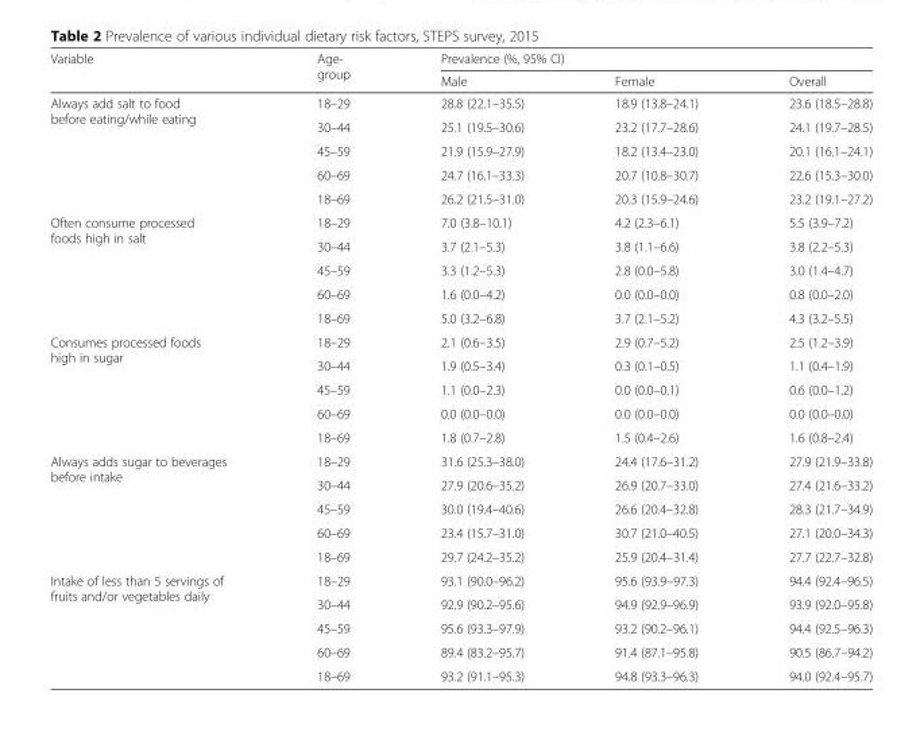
<table><thead><tr><td rowspan="2">Variable</td><td rowspan="2">Age- group</td><td colspan="3">Prevalence (%, 95% CI)</td></tr><tr><td>Male</td><td>Female</td><td>Overall</td></tr></thead><tbody><tr><td rowspan="5">Always add salt to food before eating/while eating</td><td>18–29</td><td>28.8 (22.1–35.5)</td><td>18.9 (13.8–24.1)</td><td>23.6 (18.5–28.8)</td></tr><tr><td>30–44</td><td>25.1 (19.5–30.6)</td><td>23.2 (17.7–28.6)</td><td>24.1 (19.7–28.5)</td></tr><tr><td>45–59</td><td>21.9 (15.9–27.9)</td><td>18.2 (13.4–23.0)</td><td>20.1 (16.1–24.1)</td></tr><tr><td>60–69</td><td>24.7 (16.1–33.3)</td><td>20.7 (10.8–30.7)</td><td>22.6 (15.3–30.0)</td></tr><tr><td>18–69</td><td>26.2 (21.5–31.0)</td><td>20.3 (15.9–24.6)</td><td>23.2 (19.1–27.2)</td></tr><tr><td rowspan="5">Often consume processed foods high in salt</td><td>18–29</td><td>7.0 (3.8–10.1)</td><td>4.2 (2.3–6.1)</td><td>5.5 (3.9–7.2)</td></tr><tr><td>30–44</td><td>3.7 (2.1–5.3)</td><td>3.8 (1.1–6.6)</td><td>3.8 (2.2–5.3)</td></tr><tr><td>45–59</td><td>3.3 (1.2–5.3)</td><td>2.8 (0.0–5.8)</td><td>3.0 (1.4–4.7)</td></tr><tr><td>60–69</td><td>1.6 (0.0–4.2)</td><td>0.0 (0.0–0.0)</td><td>0.8 (0.0–2.0)</td></tr><tr><td>18–69</td><td>5.0 (3.2–6.8)</td><td>3.7 (2.1–5.2)</td><td>4.3 (3.2–5.5)</td></tr><tr><td rowspan="5">Consumes processed foods high in sugar</td><td>18–29</td><td>2.1 (0.6–3.5)</td><td>2.9 (0.7–5.2)</td><td>2.5 (1.2–3.9)</td></tr><tr><td>30–44</td><td>1.9 (0.5–3.4)</td><td>0.3 (0.1–0.5)</td><td>1.1 (0.4–1.9)</td></tr><tr><td>45–59</td><td>1.1 (0.0–2.3)</td><td>0.0 (0.0–0.1)</td><td>0.6 (0.0–1.2)</td></tr><tr><td>60–69</td><td>0.0 (0.0–0.0)</td><td>0.0 (0.0–0.0)</td><td>0.0 (0.0–0.0)</td></tr><tr><td>18–69</td><td>1.8 (0.7–2.8)</td><td>1.5 (0.4–2.6)</td><td>1.6 (0.8–2.4)</td></tr><tr><td rowspan="5">Always adds sugar to beverages before intake</td><td>18–29</td><td>31.6 (25.3–38.0)</td><td>24.4 (17.6–31.2)</td><td>27.9 (21.9–33.8)</td></tr><tr><td>30–44</td><td>27.9 (20.6–35.2)</td><td>26.9 (20.7–33.0)</td><td>27.4 (21.6–33.2)</td></tr><tr><td>45–59</td><td>30.0 (19.4–40.6)</td><td>26.6 (20.4–32.8)</td><td>28.3 (21.7–34.9)</td></tr><tr><td>60–69</td><td>23.4 (15.7–31.0)</td><td>30.7 (21.0–40.5)</td><td>27.1 (20.0–34.3)</td></tr><tr><td>18–69</td><td>29.7 (24.2–35.2)</td><td>25.9 (20.4–31.4)</td><td>27.7 (22.7–32.8)</td></tr><tr><td rowspan="5">Intake of less than 5 servings of fruits and/or vegetables daily</td><td>18–29</td><td>93.1 (90.0–96.2)</td><td>95.6 (93.9–97.3)</td><td>94.4 (92.4–96.5)</td></tr><tr><td>30–44</td><td>92.9 (90.2–95.6)</td><td>94.9 (92.9–96.9)</td><td>93.9 (92.0–95.8)</td></tr><tr><td>45–59</td><td>95.6 (93.3–97.9)</td><td>93.2 (90.2–96.1)</td><td>94.4 (92.5–96.3)</td></tr><tr><td>60–69</td><td>89.4 (83.2–95.7)</td><td>91.4 (87.1–95.8)</td><td>90.5 (86.7–94.2)</td></tr><tr><td>18–69</td><td>93.2 (91.1–95.3)</td><td>94.8 (93.3–96.3)</td><td>94.0 (92.4–95.7)</td></tr></tbody></table>